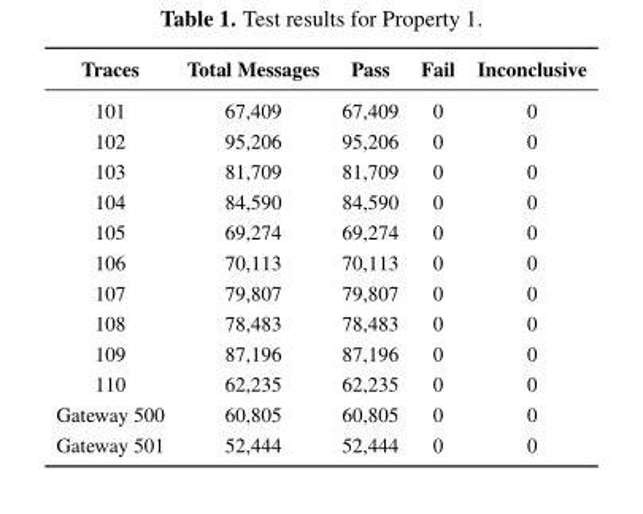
<table><thead><tr><td>Traces</td><td>Total Messages</td><td>Pass</td><td>Fail</td><td>Inconclusive</td></tr></thead><tbody><tr><td>101</td><td>67,409</td><td>67,409</td><td>0</td><td>0</td></tr><tr><td>102</td><td>95,206</td><td>95,206</td><td>0</td><td>0</td></tr><tr><td>103</td><td>81,709</td><td>81,709</td><td>0</td><td>0</td></tr><tr><td>104</td><td>84,590</td><td>84,590</td><td>0</td><td>0</td></tr><tr><td>105</td><td>69,274</td><td>69,274</td><td>0</td><td>0</td></tr><tr><td>106</td><td>70,113</td><td>70,113</td><td>0</td><td>0</td></tr><tr><td>107</td><td>79,807</td><td>79,807</td><td>0</td><td>0</td></tr><tr><td>108</td><td>78,483</td><td>78,483</td><td>0</td><td>0</td></tr><tr><td>109</td><td>87,196</td><td>87,196</td><td>0</td><td>0</td></tr><tr><td>110</td><td>62,235</td><td>62,235</td><td>0</td><td>0</td></tr><tr><td>Gateway 500</td><td>60,805</td><td>60,805</td><td>0</td><td>0</td></tr><tr><td>Gateway 501</td><td>52,444</td><td>52,444</td><td>0</td><td>0</td></tr></tbody></table>